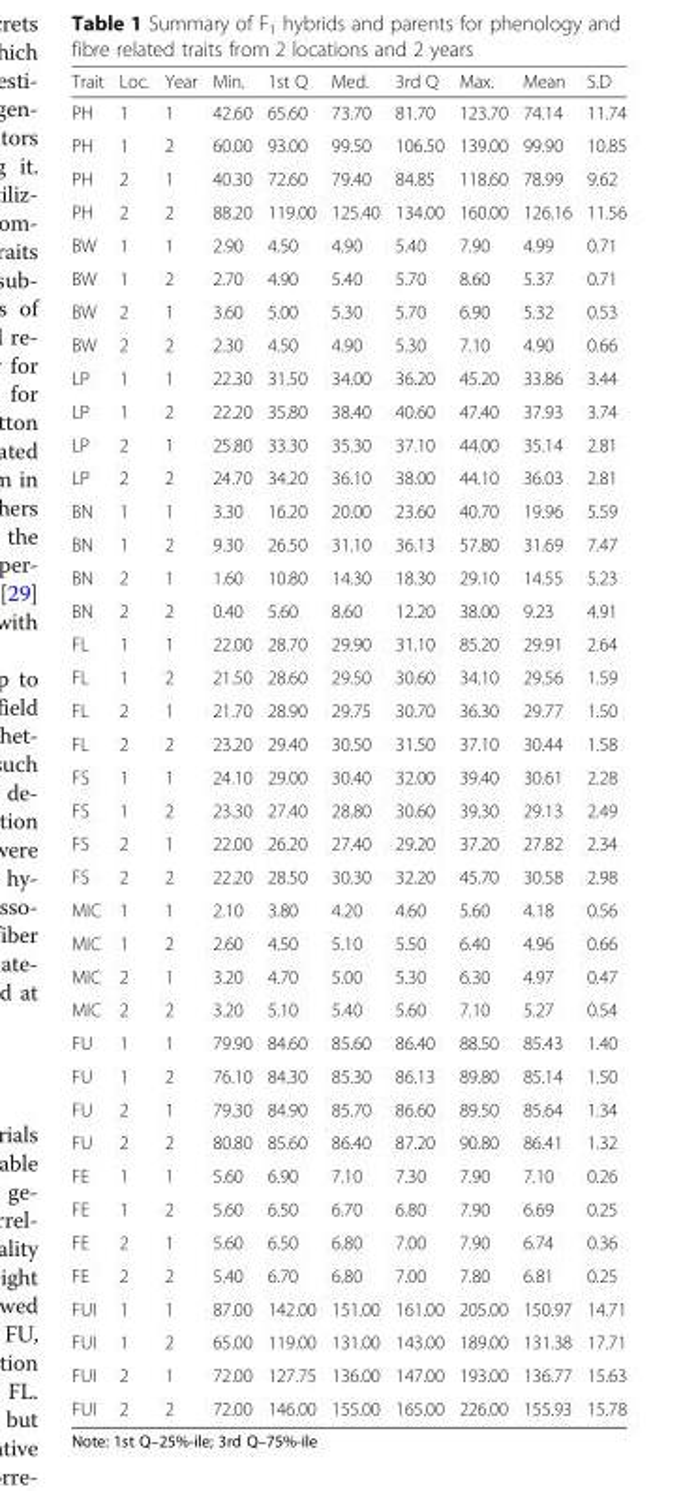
<table><thead><tr><td>Trait</td><td>Loc.</td><td>Year</td><td>Min.</td><td>1st Q</td><td>Med.</td><td>3rd Q</td><td>Max.</td><td>Mean</td><td>S.D</td></tr></thead><tbody><tr><td>PH</td><td>1</td><td>1</td><td>42.60</td><td>65.60</td><td>73.70</td><td>81.70</td><td>123.70</td><td>74.14</td><td>11.74</td></tr><tr><td>PH</td><td>1</td><td>2</td><td>60.00</td><td>93.00</td><td>99.50</td><td>106.50</td><td>139.00</td><td>99.90</td><td>10.85</td></tr><tr><td>PH</td><td>2</td><td>1</td><td>40.30</td><td>72.60</td><td>79.40</td><td>84.85</td><td>118.60</td><td>78.99</td><td>9.62</td></tr><tr><td>PH</td><td>2</td><td>2</td><td>88.20</td><td>119.00</td><td>125.40</td><td>134.00</td><td>160.00</td><td>126.16</td><td>11.56</td></tr><tr><td>BW</td><td>1</td><td>1</td><td>2.90</td><td>4.50</td><td>4.90</td><td>5.40</td><td>7.90</td><td>4.99</td><td>0.71</td></tr><tr><td>BW</td><td>1</td><td>2</td><td>2.70</td><td>4.90</td><td>5.40</td><td>5.70</td><td>8.60</td><td>5.37</td><td>0.71</td></tr><tr><td>BW</td><td>2</td><td>1</td><td>3.60</td><td>5.00</td><td>5.30</td><td>5.70</td><td>6.90</td><td>5.32</td><td>0.53</td></tr><tr><td>BW</td><td>2</td><td>2</td><td>2.30</td><td>4.50</td><td>4.90</td><td>5.30</td><td>7.10</td><td>4.90</td><td>0.66</td></tr><tr><td>LP</td><td>1</td><td>1</td><td>22.30</td><td>31.50</td><td>34.00</td><td>36.20</td><td>45.20</td><td>33.86</td><td>3.44</td></tr><tr><td>LP</td><td>1</td><td>2</td><td>22.20</td><td>35.80</td><td>38.40</td><td>40.60</td><td>47.40</td><td>37.93</td><td>3.74</td></tr><tr><td>LP</td><td>2</td><td>1</td><td>25.80</td><td>33.30</td><td>35.30</td><td>37.10</td><td>44.00</td><td>35.14</td><td>2.81</td></tr><tr><td>LP</td><td>2</td><td>2</td><td>24.70</td><td>34.20</td><td>36.10</td><td>38.00</td><td>44.10</td><td>36.03</td><td>2.81</td></tr><tr><td>BN</td><td>1</td><td>1</td><td>3.30</td><td>16.20</td><td>20.00</td><td>23.60</td><td>40.70</td><td>19.96</td><td>5.59</td></tr><tr><td>BN</td><td>1</td><td>2</td><td>9.30</td><td>26.50</td><td>31.10</td><td>36.13</td><td>57.80</td><td>31.69</td><td>7.47</td></tr><tr><td>BN</td><td>2</td><td>1</td><td>1.60</td><td>10.80</td><td>14.30</td><td>18.30</td><td>29.10</td><td>14.55</td><td>5.23</td></tr><tr><td>BN</td><td>2</td><td>2</td><td>0.40</td><td>5.60</td><td>8.60</td><td>12.20</td><td>38.00</td><td>9.23</td><td>4.91</td></tr><tr><td>FL</td><td>1</td><td>1</td><td>22.00</td><td>28.70</td><td>29.90</td><td>31.10</td><td>85.20</td><td>29.91</td><td>2.64</td></tr><tr><td>FL</td><td>1</td><td>2</td><td>21.50</td><td>28.60</td><td>29.50</td><td>30.60</td><td>34.10</td><td>29.56</td><td>1.59</td></tr><tr><td>FL</td><td>2</td><td>1</td><td>21.70</td><td>28.90</td><td>29.75</td><td>30.70</td><td>36.30</td><td>29.77</td><td>1.50</td></tr><tr><td>FL</td><td>2</td><td>2</td><td>23.20</td><td>29.40</td><td>30.50</td><td>31.50</td><td>37.10</td><td>30.44</td><td>1.58</td></tr><tr><td>FS</td><td>1</td><td>1</td><td>24.10</td><td>29.00</td><td>30.40</td><td>32.00</td><td>39.40</td><td>30.61</td><td>2.28</td></tr><tr><td>FS</td><td>1</td><td>2</td><td>23.30</td><td>27.40</td><td>28.80</td><td>30.60</td><td>39.30</td><td>29.13</td><td>2.49</td></tr><tr><td>FS</td><td>2</td><td>1</td><td>22.00</td><td>26.20</td><td>27.40</td><td>29.20</td><td>37.20</td><td>27.82</td><td>2.34</td></tr><tr><td>FS</td><td>2</td><td>2</td><td>22.20</td><td>28.50</td><td>30.30</td><td>32.20</td><td>45.70</td><td>30.58</td><td>2.98</td></tr><tr><td>MIC</td><td>1</td><td>1</td><td>2.10</td><td>3.80</td><td>4.20</td><td>4.60</td><td>5.60</td><td>4.18</td><td>0.56</td></tr><tr><td>MIC</td><td>1</td><td>2</td><td>2.60</td><td>4.50</td><td>5.10</td><td>5.50</td><td>6.40</td><td>4.96</td><td>0.66</td></tr><tr><td>MIC</td><td>2</td><td>1</td><td>3.20</td><td>4.70</td><td>5.00</td><td>5.30</td><td>6.30</td><td>4.97</td><td>0.47</td></tr><tr><td>MIC</td><td>2</td><td>2</td><td>3.20</td><td>5.10</td><td>5.40</td><td>5.60</td><td>7.10</td><td>5.27</td><td>0.54</td></tr><tr><td>FU</td><td>1</td><td>1</td><td>79.90</td><td>84.60</td><td>85.60</td><td>86.40</td><td>88.50</td><td>85.43</td><td>1.40</td></tr><tr><td>FU</td><td>1</td><td>2</td><td>76.10</td><td>84.30</td><td>85.30</td><td>86.13</td><td>89.80</td><td>85.14</td><td>1.50</td></tr><tr><td>FU</td><td>2</td><td>1</td><td>79.30</td><td>84.90</td><td>85.70</td><td>86.60</td><td>89.50</td><td>85.64</td><td>1.34</td></tr><tr><td>FU</td><td>2</td><td>2</td><td>80.80</td><td>85.60</td><td>86.40</td><td>87.20</td><td>90.80</td><td>86.41</td><td>1.32</td></tr><tr><td>FE</td><td>1</td><td>1</td><td>5.60</td><td>6.90</td><td>7.10</td><td>7.30</td><td>7.90</td><td>7.10</td><td>0.26</td></tr><tr><td>FE</td><td>1</td><td>2</td><td>5.60</td><td>6.50</td><td>6.70</td><td>6.80</td><td>7.90</td><td>6.69</td><td>0.25</td></tr><tr><td>FE</td><td>2</td><td>1</td><td>5.60</td><td>6.50</td><td>6.80</td><td>7.00</td><td>7.90</td><td>6.74</td><td>0.36</td></tr><tr><td>FE</td><td>2</td><td>2</td><td>5.40</td><td>6.70</td><td>6.80</td><td>7.00</td><td>7.80</td><td>6.81</td><td>0.25</td></tr><tr><td>FUI</td><td>1</td><td>1</td><td>87.00</td><td>142.00</td><td>151.00</td><td>161.00</td><td>205.00</td><td>150.97</td><td>14.71</td></tr><tr><td>FUI</td><td>1</td><td>2</td><td>65.00</td><td>119.00</td><td>131.00</td><td>143.00</td><td>189.00</td><td>131.38</td><td>17.71</td></tr><tr><td>FUI</td><td>2</td><td>1</td><td>72.00</td><td>127.75</td><td>136.00</td><td>147.00</td><td>193.00</td><td>136.77</td><td>15.63</td></tr><tr><td>FUI</td><td>2</td><td>2</td><td>72.00</td><td>146.00</td><td>155.00</td><td>165.00</td><td>226.00</td><td>155.93</td><td>15.78</td></tr></tbody></table>